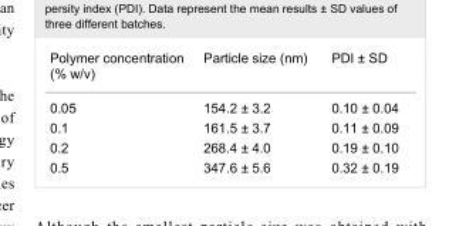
<table><tbody><tr><td>Polymer concentration (% w/v)</td><td>Particle size (nm)</td><td>PDI ± SD</td></tr><tr><td>0.05</td><td>154.2 ± 3.2</td><td>0.10 ± 0.04</td></tr><tr><td>0.1</td><td>161.5 ± 3.7</td><td>0.11 ± 0.09</td></tr><tr><td>0.2</td><td>268.4 ± 4.0</td><td>0.19 ± 0.10</td></tr><tr><td>0.5</td><td>347.6 ± 5.6</td><td>0.32 ± 0.19</td></tr></tbody></table>